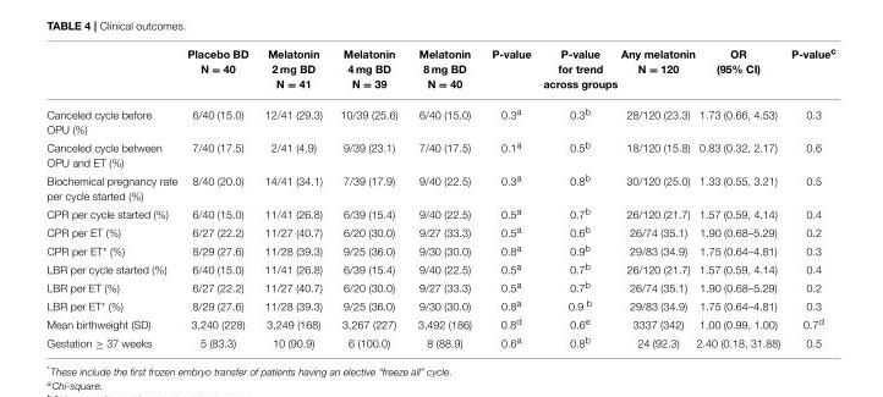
<table><thead><tr><td></td><td>Placebo BD N = 40</td><td>Melatonin 2 mg BD N = 41</td><td>Melatonin 4 mg BD N = 39</td><td>Melatonin 8 mg BD N = 40</td><td>P-value</td><td>P-value for trend across groups</td><td>Any melatonin N = 120</td><td>OR (95% CI)</td><td>P-value<sup>c</sup></td></tr></thead><tbody><tr><td>Canceled cycle before OPU (%)</td><td>6/40 (15.0)</td><td>12/41 (29.3)</td><td>10/39 (25.6)</td><td>6/40 (15.0)</td><td>0.3<sup>a</sup></td><td>0.3<sup>b</sup></td><td>28/120 (23.3)</td><td>1.73 (0.66, 4.53)</td><td>0.3</td></tr><tr><td>Canceled cycle between OPU and ET (%)</td><td>7/40 (17.5)</td><td>2/41 (4.9)</td><td>9/39 (23.1)</td><td>7/40 (17.5)</td><td>0.1<sup>a</sup></td><td>0.5<sup>b</sup></td><td>18/120 (15.8)</td><td>0.83 (0.32, 2.17)</td><td>0.6</td></tr><tr><td>Biochemical pregnancy rate per cycle started (%)</td><td>8/40 (20.0)</td><td>14/41 (34.1)</td><td>7/39 (17.9)</td><td>9/40 (22.5)</td><td>0.3<sup>a</sup></td><td>0.8<sup>b</sup></td><td>30/120 (25.0)</td><td>1.33 (0.55, 3.21)</td><td>0.5</td></tr><tr><td>CPR per cycle started (%)</td><td>6/40 (15.0)</td><td>11/41 (26.8)</td><td>6/39 (15.4)</td><td>9/40 (22.5)</td><td>0.5<sup>a</sup></td><td>0.7<sup>b</sup></td><td>26/120 (21.7)</td><td>1.57 (0.59, 4.14)</td><td>0.4</td></tr><tr><td>CPR per ET (%)</td><td>6/27 (22.2)</td><td>11/27 (40.7)</td><td>6/20 (30.0)</td><td>9/27 (33.3)</td><td>0.5<sup>a</sup></td><td>0.6<sup>b</sup></td><td>26/74 (35.1)</td><td>1.90 (0.68–5.29)</td><td>0.2</td></tr><tr><td>CPR per ET* (%)</td><td>8/29 (27.6)</td><td>11/28 (39.3)</td><td>9/25 (36.0)</td><td>9/30 (30.0)</td><td>0.8<sup>a</sup></td><td>0.9<sup>b</sup></td><td>29/83 (34.9)</td><td>1.75 (0.64–4.81)</td><td>0.3</td></tr><tr><td>LBR per cycle started (%)</td><td>6/40 (15.0)</td><td>11/41 (26.8)</td><td>6/39 (15.4)</td><td>9/40 (22.5)</td><td>0.5<sup>a</sup></td><td>0.7<sup>b</sup></td><td>26/120 (21.7)</td><td>1.57 (0.59, 4.14)</td><td>0.4</td></tr><tr><td>LBR per ET (%)</td><td>6/27 (22.2)</td><td>11/27 (40.7)</td><td>6/20 (30.0)</td><td>9/27 (33.3)</td><td>0.5<sup>a</sup></td><td>0.7<sup>b</sup></td><td>26/74 (35.1)</td><td>1.90 (0.68–5.29)</td><td>0.2</td></tr><tr><td>LBR per ET* (%)</td><td>8/29 (27.6)</td><td>11/28 (39.3)</td><td>9/25 (36.0)</td><td>9/30 (30.0)</td><td>0.8<sup>a</sup></td><td>0.9 <sup>b</sup></td><td>29/83 (34.9)</td><td>1.75 (0.64–4.81)</td><td>0.3</td></tr><tr><td>Mean birthweight (SD)</td><td>3,240 (228)</td><td>3,249 (168)</td><td>3,267 (227)</td><td>3,492 (186)</td><td>0.8<sup>d</sup></td><td>0.6<sup>e</sup></td><td>3337 (342)</td><td>1.00 (0.99, 1.00)</td><td>0.7<sup>d</sup></td></tr><tr><td>Gestation ≥ 37 weeks</td><td>5 (83.3)</td><td>10 (90.9)</td><td>6 (100.0)</td><td>8 (88.9)</td><td>0.6<sup>a</sup></td><td>0.8<sup>b</sup></td><td>24 (92.3)</td><td>2.40 (0.18, 31.88)</td><td>0.5</td></tr></tbody></table>